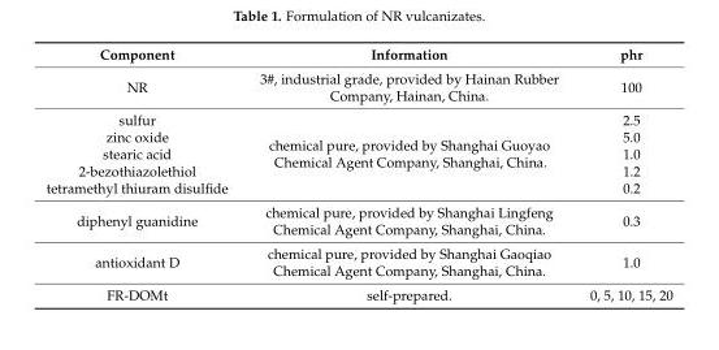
<table><thead><tr><td>Component</td><td>Information</td><td>phr</td></tr></thead><tbody><tr><td>NR</td><td>3#, industrial grade, provided by Hainan Rubber Company, Hainan, China.</td><td>100</td></tr><tr><td>sulfur</td><td rowspan="5">chemical pure, provided by Shanghai Guoyao Chemical Agent Company, Shanghai, China.</td><td>2.5</td></tr><tr><td>zinc oxide</td><td>5.0</td></tr><tr><td>stearic acid</td><td>1.0</td></tr><tr><td>2-bezothiazolethiol</td><td>1.2</td></tr><tr><td>tetramethyl thiuram disulfide</td><td>0.2</td></tr><tr><td>diphenyl guanidine</td><td>chemical pure, provided by Shanghai Lingfeng Chemical Agent Company, Shanghai, China.</td><td>0.3</td></tr><tr><td>antioxidant D</td><td>chemical pure, provided by Shanghai Gaoqiao Chemical Agent Company, Shanghai, China.</td><td>1.0</td></tr><tr><td>FR-DOMt</td><td>self-prepared.</td><td>0, 5, 10, 15, 20</td></tr></tbody></table>